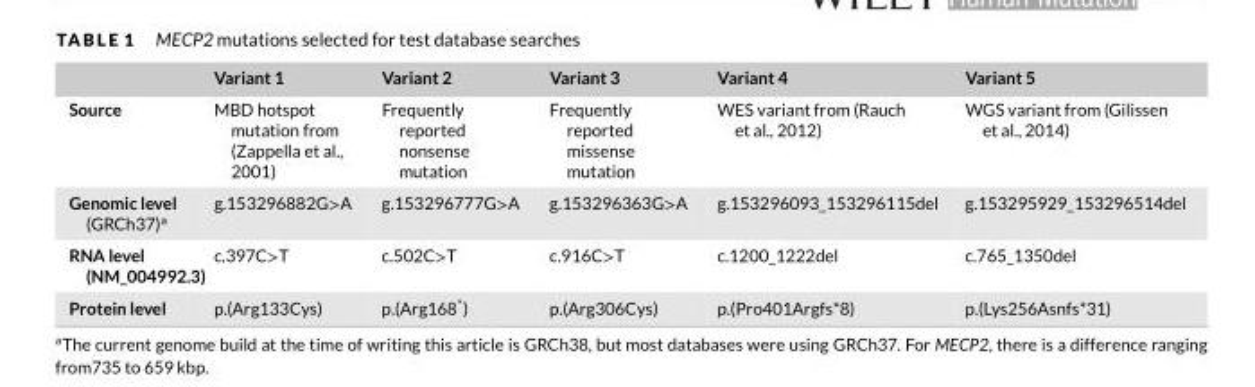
<table><thead><tr><td></td><td>Variant 1</td><td>Variant 2</td><td>Variant 3</td><td>Variant 4</td><td>Variant 5</td></tr></thead><tbody><tr><td>Source</td><td>MBD hotspot mutation from (Zappella et al., 2001)</td><td>Frequently reported nonsense mutation</td><td>Frequently reported missense mutation</td><td>WES variant from (Rauch et al., 2012)</td><td>WGS variant from (Gilissen et al., 2014)</td></tr><tr><td>Genomic level (GRCh37)<sup>a</sup></td><td>g.153296882G&gt;A</td><td>g.153296777G&gt;A</td><td>g.153296363G&gt;A</td><td>g.153296093_153296115del</td><td>g.153295929_153296514del</td></tr><tr><td>RNA level (NM_004992.3)</td><td>c.397C&gt;T</td><td>c.502C&gt;T</td><td>c.916C&gt;T</td><td>c.1200_1222del</td><td>c.765_1350del</td></tr><tr><td>Protein level</td><td>p.(Arg133Cys)</td><td>p.(Arg168*)</td><td>p.(Arg306Cys)</td><td>p.(Pro401Argfs*8)</td><td>p.(Lys256Asnfs*31)</td></tr></tbody></table>